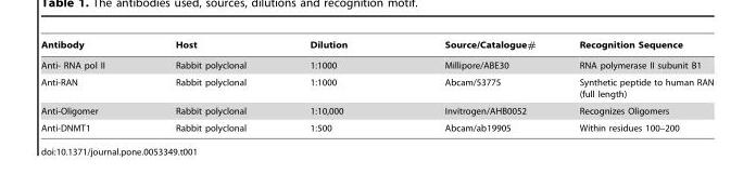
<table><thead><tr><td>Antibody</td><td>Host</td><td>Dilution</td><td>Source/Catalogue#</td><td>Recognition Sequence</td></tr></thead><tbody><tr><td>Anti- RNA pol II</td><td>Rabbit polyclonal</td><td>1:1000</td><td>Millipore/ABE30</td><td>RNA polymerase II subunit B1</td></tr><tr><td>Anti-RAN</td><td>Rabbit polyclonal</td><td>1:1000</td><td>Abcam/53775</td><td>Synthetic peptide to human RAN (full length)</td></tr><tr><td>Anti-Oligomer</td><td>Rabbit polyclonal</td><td>1:10,000</td><td>Invitrogen/AHB0052</td><td>Recognizes Oligomers</td></tr><tr><td>Anti-DNMT1</td><td>Rabbit polyclonal</td><td>1:500</td><td>Abcam/ab19905</td><td>Within residues 100–200</td></tr></tbody></table>